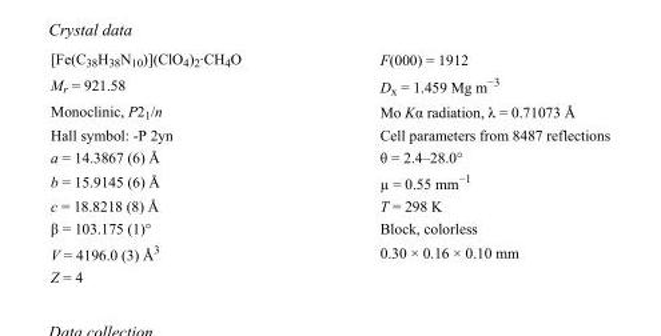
<table><tbody><tr><td>[Fe(C<sub>38</sub>H<sub>38</sub>N<sub>10</sub>)](ClO<sub>4</sub>)<sub>2</sub>·CH<sub>4</sub>O</td><td>F(000) = 1912</td></tr><tr><td>M<sub>r</sub> = 921.58</td><td>D<sub>x</sub> = 1.459 Mg m<sup>−3</sup></td></tr><tr><td>Monoclinic, P2<sub>1</sub>/n</td><td>Mo Kα radiation, λ = 0.71073 Å</td></tr><tr><td>Hall symbol: -P 2yn</td><td>Cell parameters from 8487 reflections</td></tr><tr><td>a = 14.3867 (6) Å</td><td>θ = 2.4–28.0°</td></tr><tr><td>b = 15.9145 (6) Å</td><td>µ = 0.55 mm<sup>−1</sup></td></tr><tr><td>c = 18.8218 (8) Å</td><td>T = 298 K</td></tr><tr><td>β = 103.175 (1)°</td><td>Block, colorless</td></tr><tr><td>V = 4196.0 (3) Å<sup>3</sup></td><td>0.30 × 0.16 × 0.10 mm</td></tr><tr><td>Z = 4</td><td></td></tr></tbody></table>